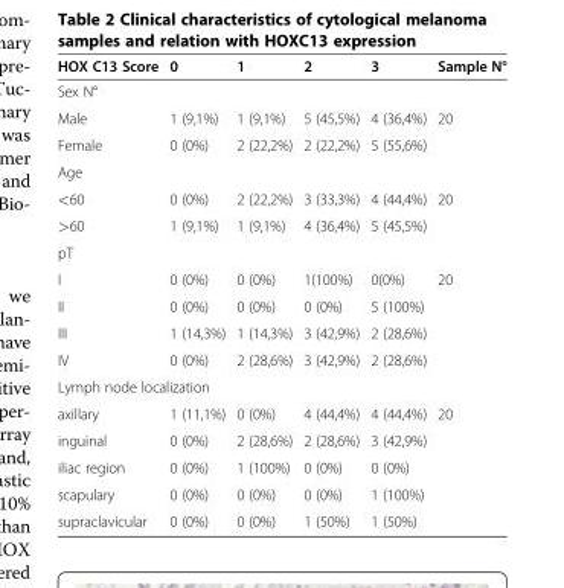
<table><thead><tr><td>HOX C13 Score</td><td>0</td><td>1</td><td>2</td><td>3</td><td>Sample N°</td></tr></thead><tbody><tr><td colspan="6">Sex N°</td></tr><tr><td>Male</td><td>1 (9,1%)</td><td>1 (9,1%)</td><td>5 (45,5%)</td><td>4 (36,4%)</td><td>20</td></tr><tr><td>Female</td><td>0 (0%)</td><td>2 (22,2%)</td><td>2 (22,2%)</td><td>5 (55,6%)</td><td></td></tr><tr><td colspan="6">Age</td></tr><tr><td>&lt;60</td><td>0 (0%)</td><td>2 (22,2%)</td><td>3 (33,3%)</td><td>4 (44,4%)</td><td>20</td></tr><tr><td>&gt;60</td><td>1 (9,1%)</td><td>1 (9,1%)</td><td>4 (36,4%)</td><td>5 (45,5%)</td><td></td></tr><tr><td colspan="6">pT</td></tr><tr><td>I</td><td>0 (0%)</td><td>0 (0%)</td><td>1(100%)</td><td>0(0%)</td><td>20</td></tr><tr><td>II</td><td>0 (0%)</td><td>0 (0%)</td><td>0 (0%)</td><td>5 (100%)</td><td></td></tr><tr><td>III</td><td>1 (14,3%)</td><td>1 (14,3%)</td><td>3 (42,9%)</td><td>2 (28,6%)</td><td></td></tr><tr><td>IV</td><td>0 (0%)</td><td>2 (28,6%)</td><td>3 (42,9%)</td><td>2 (28,6%)</td><td></td></tr><tr><td colspan="6">Lymph node localization</td></tr><tr><td>axillary</td><td>1 (11,1%)</td><td>0 (0%)</td><td>4 (44,4%)</td><td>4 (44,4%)</td><td>20</td></tr><tr><td>inguinal</td><td>0 (0%)</td><td>2 (28,6%)</td><td>2 (28,6%)</td><td>3 (42,9%)</td><td></td></tr><tr><td>iliac region</td><td>0 (0%)</td><td>1 (100%)</td><td>0 (0%)</td><td>0 (0%)</td><td></td></tr><tr><td>scapulary</td><td>0 (0%)</td><td>0 (0%)</td><td>0 (0%)</td><td>1 (100%)</td><td></td></tr><tr><td>supraclavicular</td><td>0 (0%)</td><td>0 (0%)</td><td>1 (50%)</td><td>1 (50%)</td><td></td></tr></tbody></table>